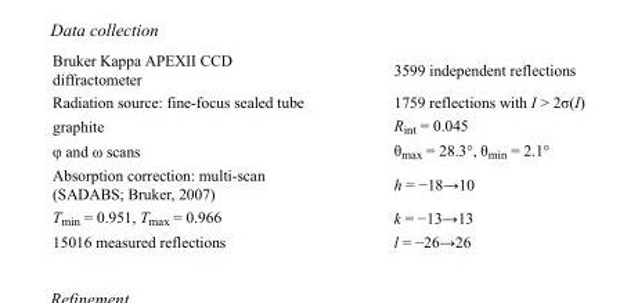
<table><tbody><tr><td>Bruker Kappa APEXII CCD diffractometer</td><td>3599 independent reflections</td></tr><tr><td>Radiation source: fine-focus sealed tube</td><td>1759 reflections with I &gt; 2σ(I)</td></tr><tr><td>graphite</td><td>R<sub>int</sub> = 0.045</td></tr><tr><td>φ and ω scans</td><td>θ<sub>max</sub> = 28.3°, θ<sub>min</sub> = 2.1°</td></tr><tr><td>Absorption correction: multi-scan (SADABS; Bruker, 2007)</td><td>h = −18→10</td></tr><tr><td>T<sub>min</sub> = 0.951, T<sub>max</sub> = 0.966</td><td>k = −13→13</td></tr><tr><td>15016 measured reflections</td><td>l = −26→26</td></tr></tbody></table>